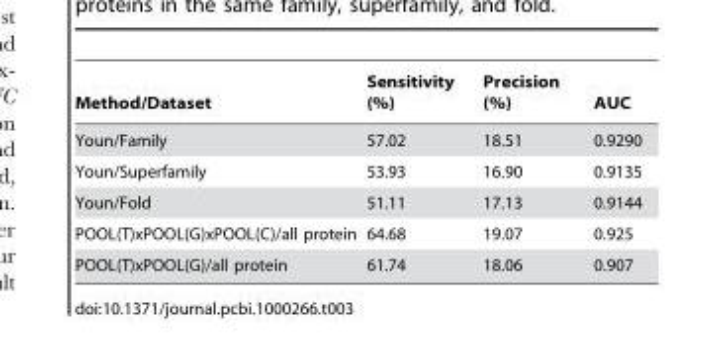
<table><thead><tr><td>Method/Dataset</td><td>Sensitivity (%)</td><td>Precision (%)</td><td>AUC</td></tr></thead><tbody><tr><td>Youn/Family</td><td>57.02</td><td>18.51</td><td>0.9290</td></tr><tr><td>Youn/Superfamily</td><td>53.93</td><td>16.90</td><td>0.9135</td></tr><tr><td>Youn/Fold</td><td>51.11</td><td>17.13</td><td>0.9144</td></tr><tr><td>POOL(T)xPOOL(G)xPOOL(C)/all protein</td><td>64.68</td><td>19.07</td><td>0.925</td></tr><tr><td>POOL(T)xPOOL(G)/all protein</td><td>61.74</td><td>18.06</td><td>0.907</td></tr></tbody></table>